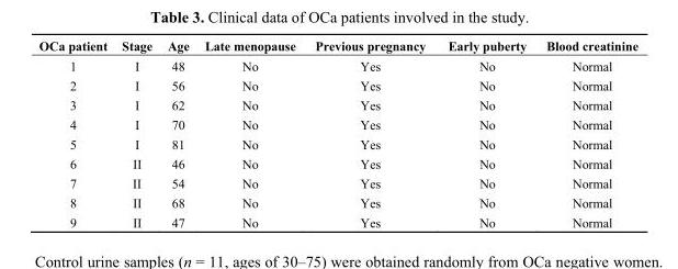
<table><thead><tr><td>OCa patient</td><td>Stage</td><td>Age</td><td>Late menopause</td><td>Previous pregnancy</td><td>Early puberty</td><td>Blood creatinine</td></tr></thead><tbody><tr><td>1</td><td>I</td><td>48</td><td>No</td><td>Yes</td><td>No</td><td>Normal</td></tr><tr><td>2</td><td>I</td><td>56</td><td>No</td><td>Yes</td><td>No</td><td>Normal</td></tr><tr><td>3</td><td>I</td><td>62</td><td>No</td><td>Yes</td><td>No</td><td>Normal</td></tr><tr><td>4</td><td>I</td><td>70</td><td>No</td><td>Yes</td><td>No</td><td>Normal</td></tr><tr><td>5</td><td>I</td><td>81</td><td>No</td><td>Yes</td><td>No</td><td>Normal</td></tr><tr><td>6</td><td>II</td><td>46</td><td>No</td><td>Yes</td><td>No</td><td>Normal</td></tr><tr><td>7</td><td>II</td><td>54</td><td>No</td><td>Yes</td><td>No</td><td>Normal</td></tr><tr><td>8</td><td>II</td><td>68</td><td>No</td><td>Yes</td><td>No</td><td>Normal</td></tr><tr><td>9</td><td>II</td><td>47</td><td>No</td><td>Yes</td><td>No</td><td>Normal</td></tr></tbody></table>